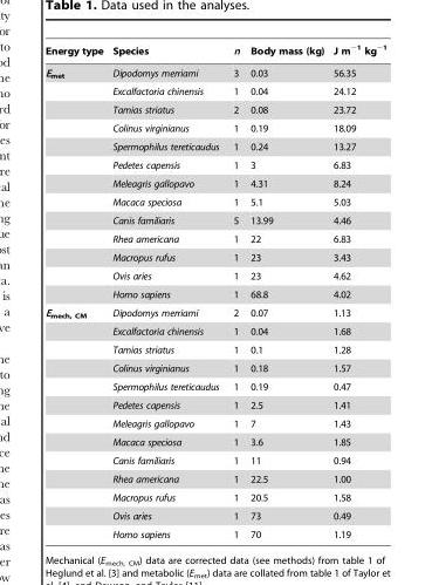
<table><thead><tr><td>Energy type</td><td>Species</td><td>n</td><td>Body mass (kg)</td><td>J m<sup>−1</sup> kg<sup>−1</sup></td></tr></thead><tbody><tr><td rowspan="13">E<sub>met</sub></td><td>Dipodomys merriami</td><td>3</td><td>0.03</td><td>56.35</td></tr><tr><td>Excalfactoria chinensis</td><td>1</td><td>0.04</td><td>24.12</td></tr><tr><td>Tamias striatus</td><td>2</td><td>0.08</td><td>23.72</td></tr><tr><td>Colinus virginianus</td><td>1</td><td>0.19</td><td>18.09</td></tr><tr><td>Spermophilus tereticaudus</td><td>1</td><td>0.24</td><td>13.27</td></tr><tr><td>Pedetes capensis</td><td>1</td><td>3</td><td>6.83</td></tr><tr><td>Meleagris gallopavo</td><td>1</td><td>4.31</td><td>8.24</td></tr><tr><td>Macaca speciosa</td><td>1</td><td>5.1</td><td>5.03</td></tr><tr><td>Canis familiaris</td><td>5</td><td>13.99</td><td>4.46</td></tr><tr><td>Rhea americana</td><td>1</td><td>22</td><td>6.83</td></tr><tr><td>Macropus rufus</td><td>1</td><td>23</td><td>3.43</td></tr><tr><td>Ovis aries</td><td>1</td><td>23</td><td>4.62</td></tr><tr><td>Homo sapiens</td><td>1</td><td>68.8</td><td>4.02</td></tr><tr><td rowspan="13">E<sub>mech, CM</sub></td><td>Dipodomys merriami</td><td>2</td><td>0.07</td><td>1.13</td></tr><tr><td>Excalfactoria chinensis</td><td>1</td><td>0.04</td><td>1.68</td></tr><tr><td>Tamias striatus</td><td>1</td><td>0.1</td><td>1.28</td></tr><tr><td>Colinus virginianus</td><td>1</td><td>0.18</td><td>1.57</td></tr><tr><td>Spermophilus tereticaudus</td><td>1</td><td>0.19</td><td>0.47</td></tr><tr><td>Pedetes capensis</td><td>1</td><td>2.5</td><td>1.41</td></tr><tr><td>Meleagris gallopavo</td><td>1</td><td>7</td><td>1.43</td></tr><tr><td>Macaca speciosa</td><td>1</td><td>3.6</td><td>1.85</td></tr><tr><td>Canis familiaris</td><td>1</td><td>11</td><td>0.94</td></tr><tr><td>Rhea americana</td><td>1</td><td>22.5</td><td>1.00</td></tr><tr><td>Macropus rufus</td><td>1</td><td>20.5</td><td>1.58</td></tr><tr><td>Ovis aries</td><td>1</td><td>73</td><td>0.49</td></tr><tr><td>Homo sapiens</td><td>1</td><td>70</td><td>1.19</td></tr></tbody></table>